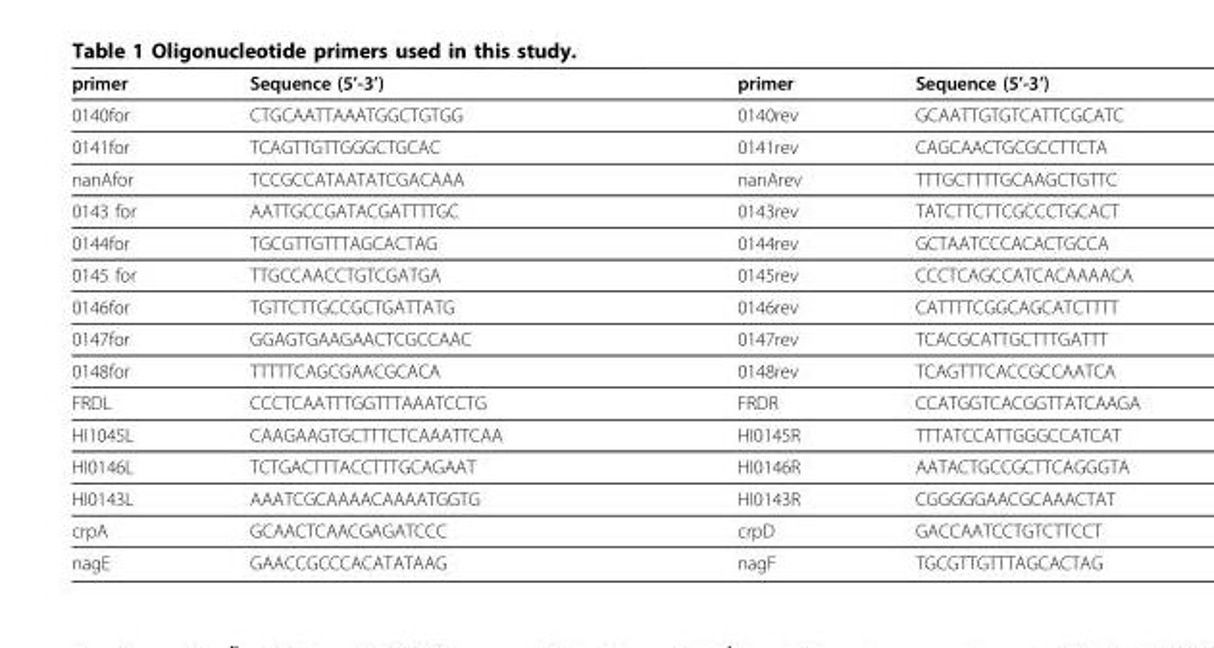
<table><thead><tr><td>primer</td><td>Sequence (5’-3’)</td><td>primer</td><td>Sequence (5’-3’)</td></tr></thead><tbody><tr><td>0140for</td><td>CTGCAATTAAATGGCTGTGG</td><td>0140rev</td><td>GCAATTGTGTCATTCGCATC</td></tr><tr><td>0141for</td><td>TCAGTTGTTGGGCTGCAC</td><td>0141rev</td><td>CAGCAACTGCGCCTTCTA</td></tr><tr><td>nanAfor</td><td>TCCGCCATAATATCGACAAA</td><td>nanArev</td><td>TTTGCTTTTGCAAGCTGTTC</td></tr><tr><td>0143 for</td><td>AATTGCCGATACGATTTTGC</td><td>0143rev</td><td>TATCTTCTTCGCCCTGCACT</td></tr><tr><td>0144for</td><td>TGCGTTGTTTAGCACTAG</td><td>0144rev</td><td>GCTAATCCCACACTGCCA</td></tr><tr><td>0145 for</td><td>TTGCCAACCTGTCGATGA</td><td>0145rev</td><td>CCCTCAGCCATCACAAAACA</td></tr><tr><td>0146for</td><td>TGTTCTTGCCGCTGATTATG</td><td>0146rev</td><td>CATTTTCGGCAGCATCTTTT</td></tr><tr><td>0147for</td><td>GGAGTGAAGAACTCGCCAAC</td><td>0147rev</td><td>TCACGCATTGCTTTGATTT</td></tr><tr><td>0148for</td><td>TTTTTCAGCGAACGCACA</td><td>0148rev</td><td>TCAGTTTCACCGCCAATCA</td></tr><tr><td>FRDL</td><td>CCCTCAATTTGGTTTAAATCCTG</td><td>FRDR</td><td>CCATGGTCACGGTTATCAAGA</td></tr><tr><td>HI1045L</td><td>CAAGAAGTGCTTTCTCAAATTCAA</td><td>HI0145R</td><td>TTTATCCATTGGGCCATCAT</td></tr><tr><td>HI0146L</td><td>TCTGACTTTACCTTTGCAGAAT</td><td>HI0146R</td><td>AATACTGCCGCTTCAGGGTA</td></tr><tr><td>HI0143L</td><td>AAATCGCAAAACAAAATGGTG</td><td>HI0143R</td><td>CGGGGGAACGCAAACTAT</td></tr><tr><td>crpA</td><td>GCAACTCAACGAGATCCC</td><td>crpD</td><td>GACCAATCCTGTCTTCCT</td></tr><tr><td>nagE</td><td>GAACCGCCCACATATAAG</td><td>nagF</td><td>TGCGTTGTTTAGCACTAG</td></tr></tbody></table>